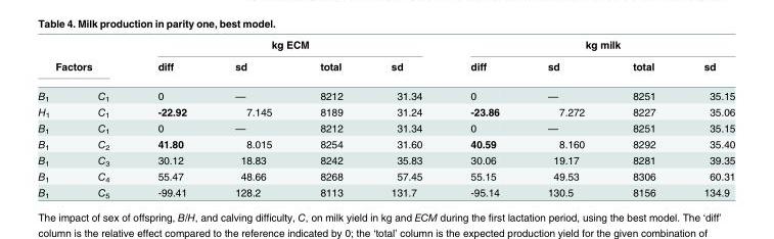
<table><thead><tr><td></td><td></td><td colspan="4">kg ECM</td><td colspan="4">kg milk</td></tr><tr><td colspan="2">Factors</td><td>diff</td><td>sd</td><td>total</td><td>sd</td><td>diff</td><td>sd</td><td>total</td><td>sd</td></tr></thead><tbody><tr><td>B<sub>1</sub></td><td>C<sub>1</sub></td><td>0</td><td>—</td><td>8212</td><td>31.34</td><td>0</td><td>—</td><td>8251</td><td>35.15</td></tr><tr><td>H<sub>1</sub></td><td>C<sub>1</sub></td><td>-22.92</td><td>7.145</td><td>8189</td><td>31.24</td><td>-23.86</td><td>7.272</td><td>8227</td><td>35.06</td></tr><tr><td>B<sub>1</sub></td><td>C<sub>1</sub></td><td>0</td><td>—</td><td>8212</td><td>31.34</td><td>0</td><td>—</td><td>8251</td><td>35.15</td></tr><tr><td>B<sub>1</sub></td><td>C<sub>2</sub></td><td>41.80</td><td>8.015</td><td>8254</td><td>31.60</td><td>40.59</td><td>8.160</td><td>8292</td><td>35.40</td></tr><tr><td>B<sub>1</sub></td><td>C<sub>3</sub></td><td>30.12</td><td>18.83</td><td>8242</td><td>35.83</td><td>30.06</td><td>19.17</td><td>8281</td><td>39.35</td></tr><tr><td>B<sub>1</sub></td><td>C<sub>4</sub></td><td>55.47</td><td>48.66</td><td>8268</td><td>57.45</td><td>55.15</td><td>49.53</td><td>8306</td><td>60.31</td></tr><tr><td>B<sub>1</sub></td><td>C<sub>5</sub></td><td>-99.41</td><td>128.2</td><td>8113</td><td>131.7</td><td>-95.14</td><td>130.5</td><td>8156</td><td>134.9</td></tr></tbody></table>